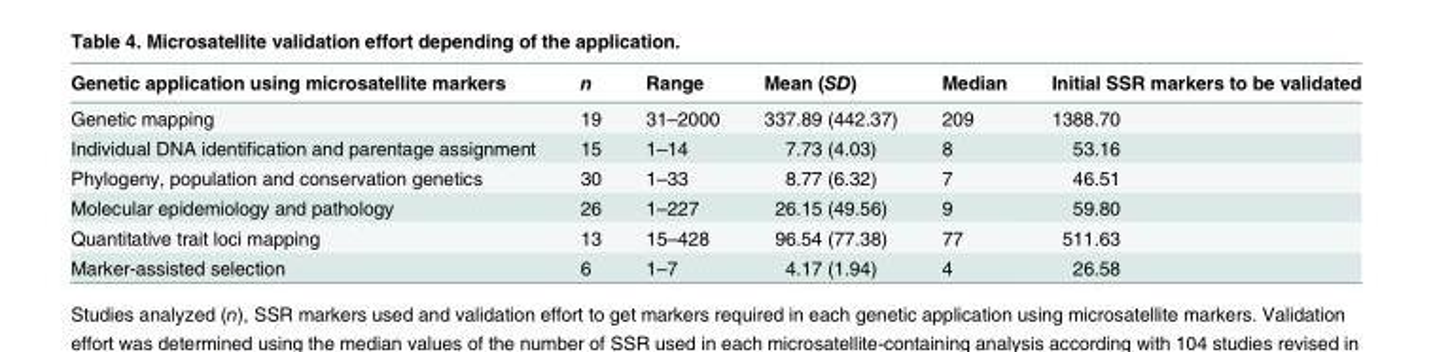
<table><thead><tr><td>Genetic application using microsatellite markers</td><td>n</td><td>Range</td><td>Mean (SD)</td><td>Median</td><td>Initial SSR markers to be validated</td></tr></thead><tbody><tr><td>Genetic mapping</td><td>19</td><td>31–2000</td><td>337.89 (442.37)</td><td>209</td><td>1388.70</td></tr><tr><td>Individual DNA identification and parentage assignment</td><td>15</td><td>1–14</td><td>7.73 (4.03)</td><td>8</td><td>53.16</td></tr><tr><td>Phylogeny, population and conservation genetics</td><td>30</td><td>1–33</td><td>8.77 (6.32)</td><td>7</td><td>46.51</td></tr><tr><td>Molecular epidemiology and pathology</td><td>26</td><td>1–227</td><td>26.15 (49.56)</td><td>9</td><td>59.80</td></tr><tr><td>Quantitative trait loci mapping</td><td>13</td><td>15–428</td><td>96.54 (77.38)</td><td>77</td><td>511.63</td></tr><tr><td>Marker-assisted selection</td><td>6</td><td>1–7</td><td>4.17 (1.94)</td><td>4</td><td>26.58</td></tr></tbody></table>